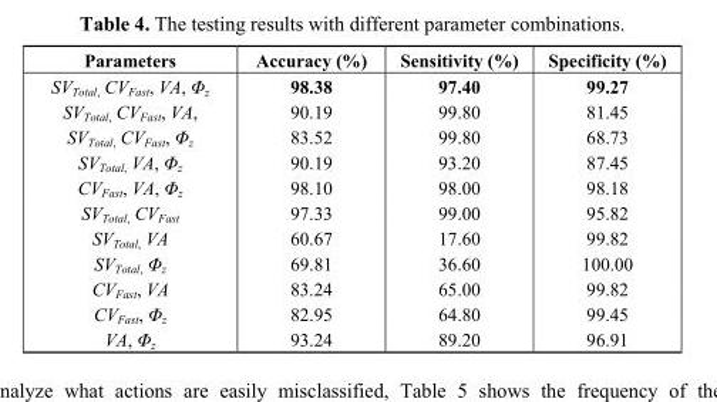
<table><thead><tr><td>Parameters</td><td>Accuracy (%)</td><td>Sensitivity (%)</td><td>Specificity (%)</td></tr></thead><tbody><tr><td>SV<sub>Total</sub>, CV<sub>Fast</sub>, VA, Φ<sub>z</sub></td><td>98.38</td><td>97.40</td><td>99.27</td></tr><tr><td>SV<sub>Total</sub>, CV<sub>Fast</sub>, VA,</td><td>90.19</td><td>99.80</td><td>81.45</td></tr><tr><td>SV<sub>Total</sub>, CV<sub>Fast</sub>, Φ<sub>z</sub></td><td>83.52</td><td>99.80</td><td>68.73</td></tr><tr><td>SV<sub>Total</sub>, VA, Φ<sub>z</sub></td><td>90.19</td><td>93.20</td><td>87.45</td></tr><tr><td>CV<sub>Fast</sub>, VA, Φ<sub>z</sub></td><td>98.10</td><td>98.00</td><td>98.18</td></tr><tr><td>SV<sub>Total</sub>, CV<sub>Fast</sub></td><td>97.33</td><td>99.00</td><td>95.82</td></tr><tr><td>SV<sub>Total</sub>, VA</td><td>60.67</td><td>17.60</td><td>99.82</td></tr><tr><td>SV<sub>Total</sub>, Φ<sub>z</sub></td><td>69.81</td><td>36.60</td><td>100.00</td></tr><tr><td>CV<sub>Fast</sub>, VA</td><td>83.24</td><td>65.00</td><td>99.82</td></tr><tr><td>CV<sub>Fast</sub>, Φ<sub>z</sub></td><td>82.95</td><td>64.80</td><td>99.45</td></tr><tr><td>VA, Φ<sub>z</sub></td><td>93.24</td><td>89.20</td><td>96.91</td></tr></tbody></table>